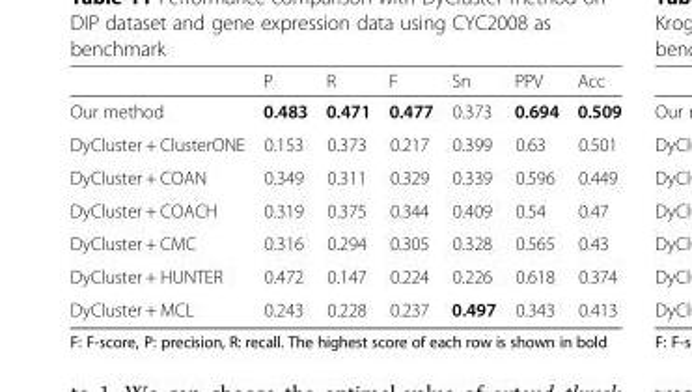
<table><thead><tr><td></td><td>P</td><td>R</td><td>F</td><td>Sn</td><td>PPV</td><td>Acc</td></tr></thead><tbody><tr><td>Our method</td><td>0.483</td><td>0.471</td><td>0.477</td><td>0.373</td><td>0.694</td><td>0.509</td></tr><tr><td>DyCluster + ClusterONE</td><td>0.153</td><td>0.373</td><td>0.217</td><td>0.399</td><td>0.63</td><td>0.501</td></tr><tr><td>DyCluster + COAN</td><td>0.349</td><td>0.311</td><td>0.329</td><td>0.339</td><td>0.596</td><td>0.449</td></tr><tr><td>DyCluster + COACH</td><td>0.319</td><td>0.375</td><td>0.344</td><td>0.409</td><td>0.54</td><td>0.47</td></tr><tr><td>DyCluster + CMC</td><td>0.316</td><td>0.294</td><td>0.305</td><td>0.328</td><td>0.565</td><td>0.43</td></tr><tr><td>DyCluster + HUNTER</td><td>0.472</td><td>0.147</td><td>0.224</td><td>0.226</td><td>0.618</td><td>0.374</td></tr><tr><td>DyCluster + MCL</td><td>0.243</td><td>0.228</td><td>0.237</td><td>0.497</td><td>0.343</td><td>0.413</td></tr></tbody></table>